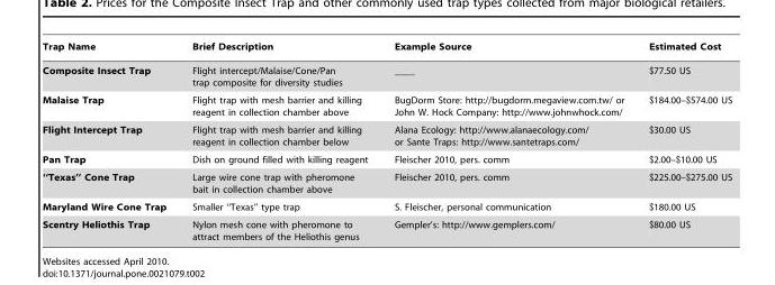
<table><thead><tr><td>Trap Name</td><td>Brief Description</td><td>Example Source</td><td>Estimated Cost</td></tr></thead><tbody><tr><td>Composite Insect Trap</td><td>Flight intercept/Malaise/Cone/Pan trap composite for diversity studies</td><td>____</td><td>$77.50 US</td></tr><tr><td>Malaise Trap</td><td>Flight trap with mesh barrier and killing reagent in collection chamber above</td><td>BugDorm Store: http://bugdorm.megaview.com.tw/ or John W. Hock Company: http://www.johnwhock.com/</td><td>$184.00–$574.00 US</td></tr><tr><td>Flight Intercept Trap</td><td>Flight trap with mesh barrier and killing reagent in collection chamber below</td><td>Alana Ecology: http://www.alanaecology.com/ or Sante Traps: http://www.santetraps.com/</td><td>$30.00 US</td></tr><tr><td>Pan Trap</td><td>Dish on ground filled with killing reagent</td><td>Fleischer 2010, pers. comm</td><td>$2.00–$10.00 US</td></tr><tr><td>‘‘Texas’’ Cone Trap</td><td>Large wire cone trap with pheromone bait in collection chamber above</td><td>Fleischer 2010, pers. comm</td><td>$225.00–$275.00 US</td></tr><tr><td>Maryland Wire Cone Trap</td><td>Smaller ‘‘Texas’’ type trap</td><td>S. Fleischer, personal communication</td><td>$180.00 US</td></tr><tr><td>Scentry Heliothis Trap</td><td>Nylon mesh cone with pheromone to attract members of the Heliothis genus</td><td>Gempler’s: http://www.gemplers.com/</td><td>$80.00 US</td></tr></tbody></table>